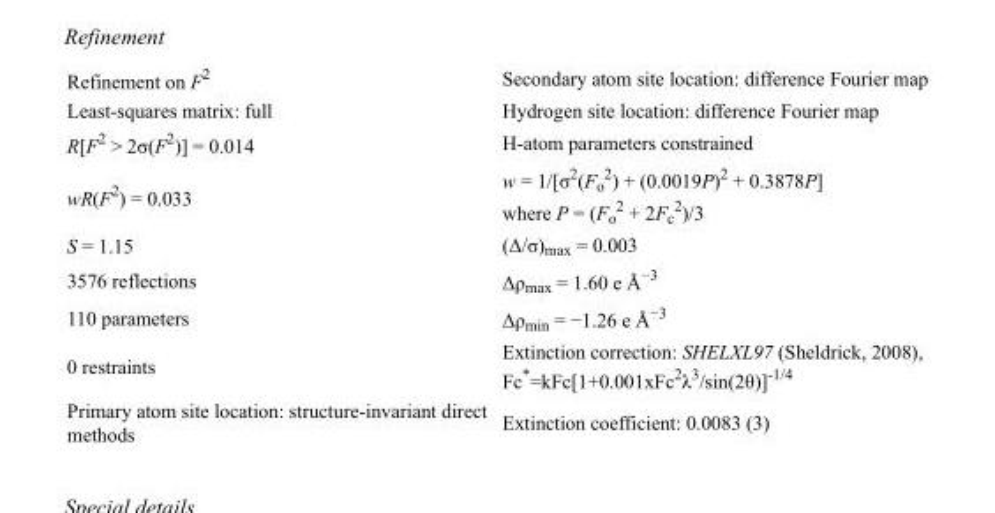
<table><tbody><tr><td>Refinement on F<sup>2</sup></td><td>Secondary atom site location: difference Fourier map</td></tr><tr><td>Least-squares matrix: full</td><td>Hydrogen site location: difference Fourier map</td></tr><tr><td>R[F<sup>2</sup> &gt; 2σ(F<sup>2</sup>)] = 0.014</td><td>H-atom parameters constrained</td></tr><tr><td>wR(F<sup>2</sup>) = 0.033</td><td>w = 1/[σ<sup>2</sup>(F<sub>o</sub> <sup>2</sup>) + (0.0019P)<sup>2</sup> + 0.3878P] where P = (F<sub>o</sub> <sup>2</sup> + 2F<sub>c</sub> <sup>2</sup>)/3</td></tr><tr><td>S = 1.15</td><td>(Δ/σ)<sub>max</sub> = 0.003</td></tr><tr><td>3576 reflections</td><td>Δρ<sub>max</sub> = 1.60 e Å<sup>−3</sup></td></tr><tr><td>110 parameters</td><td>Δρ<sub>min</sub> = −1.26 e Å<sup>−3</sup></td></tr><tr><td>0 restraints</td><td>Extinction correction: SHELXL97 (Sheldrick, 2008), Fc*=kFc[1+0.001xFc<sup>2</sup>λ<sup>3</sup>/sin(2θ)]<sup>-1/4</sup></td></tr><tr><td>Primary atom site location: structure-invariant direct methods</td><td>Extinction coefficient: 0.0083 (3)</td></tr></tbody></table>